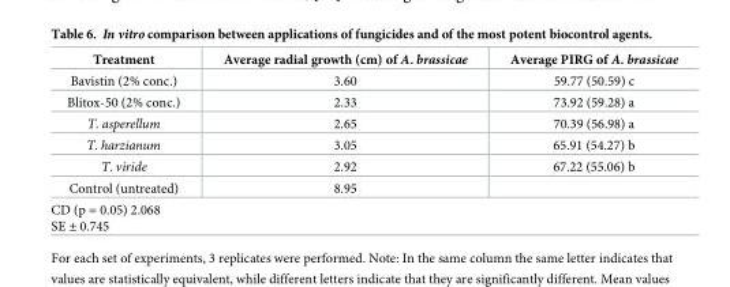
<table><thead><tr><td>Treatment</td><td>Average radial growth (cm) of A. brassicae</td><td>Average PIRG of A. brassicae</td></tr></thead><tbody><tr><td>Bavistin (2% conc.)</td><td>3.60</td><td>59.77 (50.59) c</td></tr><tr><td>Blitox-50 (2% conc.)</td><td>2.33</td><td>73.92 (59.28) a</td></tr><tr><td>T. asperellum</td><td>2.65</td><td>70.39 (56.98) a</td></tr><tr><td>T. harzianum</td><td>3.05</td><td>65.91 (54.27) b</td></tr><tr><td>T. viride</td><td>2.92</td><td>67.22 (55.06) b</td></tr><tr><td>Control (untreated)</td><td>8.95</td><td></td></tr><tr><td colspan="3">CD (p = 0.05) 2.068 SE ± 0.745</td></tr></tbody></table>